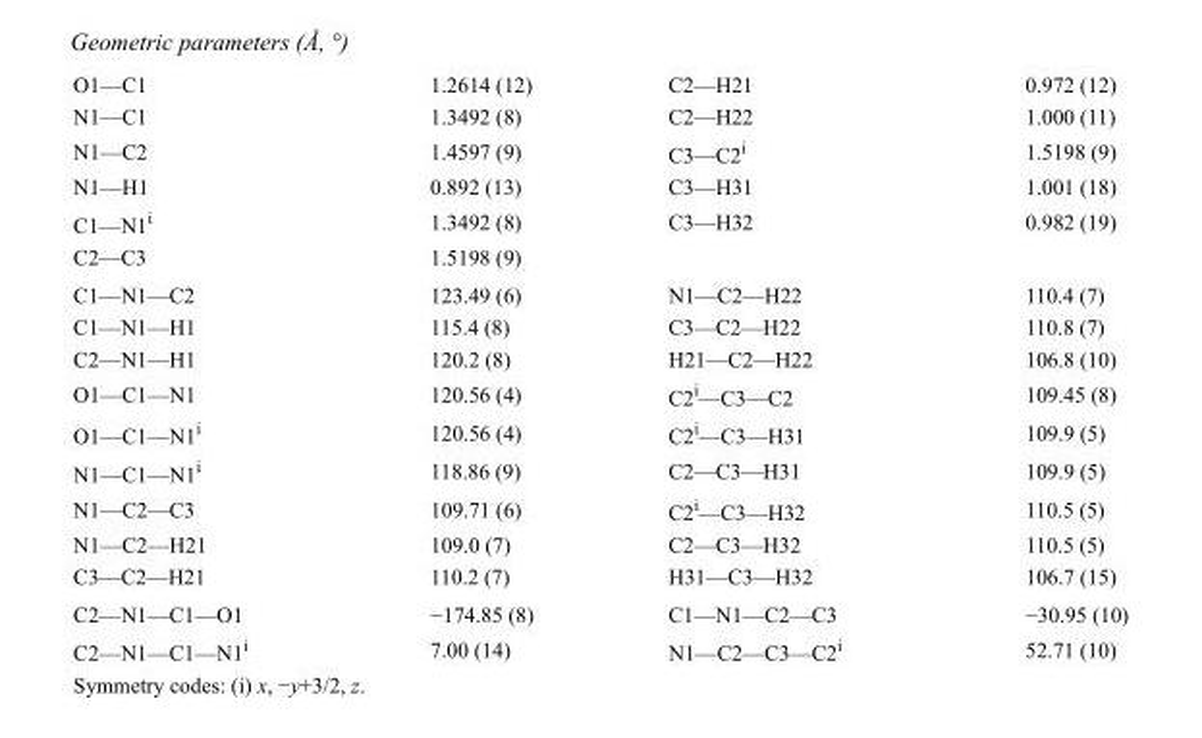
<table><tbody><tr><td>O1—C1</td><td>1.2614 (12)</td><td>C2—H21</td><td>0.972 (12)</td></tr><tr><td>N1—C1</td><td>1.3492 (8)</td><td>C2—H22</td><td>1.000 (11)</td></tr><tr><td>N1—C2</td><td>1.4597 (9)</td><td>C3—C2<sup>i</sup></td><td>1.5198 (9)</td></tr><tr><td>N1—H1</td><td>0.892 (13)</td><td>C3—H31</td><td>1.001 (18)</td></tr><tr><td>C1—N1<sup>i</sup></td><td>1.3492 (8)</td><td>C3—H32</td><td>0.982 (19)</td></tr><tr><td>C2—C3</td><td>1.5198 (9)</td><td></td><td></td></tr><tr><td>C1—N1—C2</td><td>123.49 (6)</td><td>N1—C2—H22</td><td>110.4 (7)</td></tr><tr><td>C1—N1—H1</td><td>115.4 (8)</td><td>C3—C2—H22</td><td>110.8 (7)</td></tr><tr><td>C2—N1—H1</td><td>120.2 (8)</td><td>H21—C2—H22</td><td>106.8 (10)</td></tr><tr><td>O1—C1—N1</td><td>120.56 (4)</td><td>C2<sup>i</sup>—C3—C2</td><td>109.45 (8)</td></tr><tr><td>O1—C1—N1<sup>i</sup></td><td>120.56 (4)</td><td>C2<sup>i</sup>—C3—H31</td><td>109.9 (5)</td></tr><tr><td>N1—C1—N1<sup>i</sup></td><td>118.86 (9)</td><td>C2—C3—H31</td><td>109.9 (5)</td></tr><tr><td>N1—C2—C3</td><td>109.71 (6)</td><td>C2<sup>i</sup>—C3—H32</td><td>110.5 (5)</td></tr><tr><td>N1—C2—H21</td><td>109.0 (7)</td><td>C2—C3—H32</td><td>110.5 (5)</td></tr><tr><td>C3—C2—H21</td><td>110.2 (7)</td><td>H31—C3—H32</td><td>106.7 (15)</td></tr><tr><td>C2—N1—C1—O1</td><td>−174.85 (8)</td><td>C1—N1—C2—C3</td><td>−30.95 (10)</td></tr><tr><td>C2—N1—C1—N1<sup>i</sup></td><td>7.00 (14)</td><td>N1—C2—C3—C2<sup>i</sup></td><td>52.71 (10)</td></tr></tbody></table>